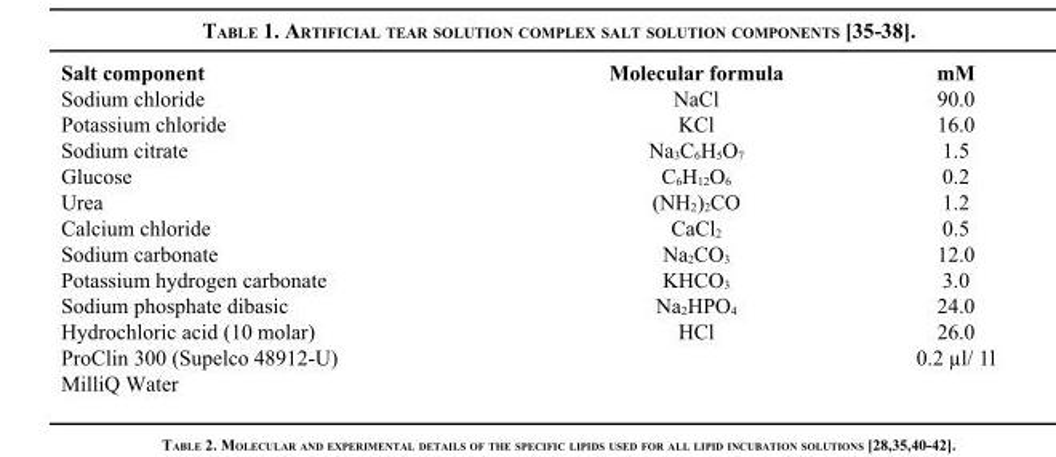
<table><thead><tr><td>Salt component</td><td>Molecular formula</td><td>mM</td></tr></thead><tbody><tr><td>Sodium chloride</td><td>NaCl</td><td>90.0</td></tr><tr><td>Potassium chloride</td><td>KCl</td><td>16.0</td></tr><tr><td>Sodium citrate</td><td>Na<sub>3</sub>C<sub>6</sub>H<sub>5</sub>O<sub>7</sub></td><td>1.5</td></tr><tr><td>Glucose</td><td>C<sub>6</sub>H<sub>12</sub>O<sub>6</sub></td><td>0.2</td></tr><tr><td>Urea</td><td>(NH<sub>2</sub>)<sub>2</sub>CO</td><td>1.2</td></tr><tr><td>Calcium chloride</td><td>CaCl<sub>2</sub></td><td>0.5</td></tr><tr><td>Sodium carbonate</td><td>Na<sub>2</sub>CO<sub>3</sub></td><td>12.0</td></tr><tr><td>Potassium hydrogen carbonate</td><td>KHCO<sub>3</sub></td><td>3.0</td></tr><tr><td>Sodium phosphate dibasic</td><td>Na<sub>2</sub>HPO<sub>4</sub></td><td>24.0</td></tr><tr><td>Hydrochloric acid (10 molar)</td><td>HCl</td><td>26.0</td></tr><tr><td>ProClin 300 (Supelco 48912-U)</td><td></td><td>0.2 µl/ 1l</td></tr><tr><td>MilliQ Water</td><td></td><td></td></tr></tbody></table>